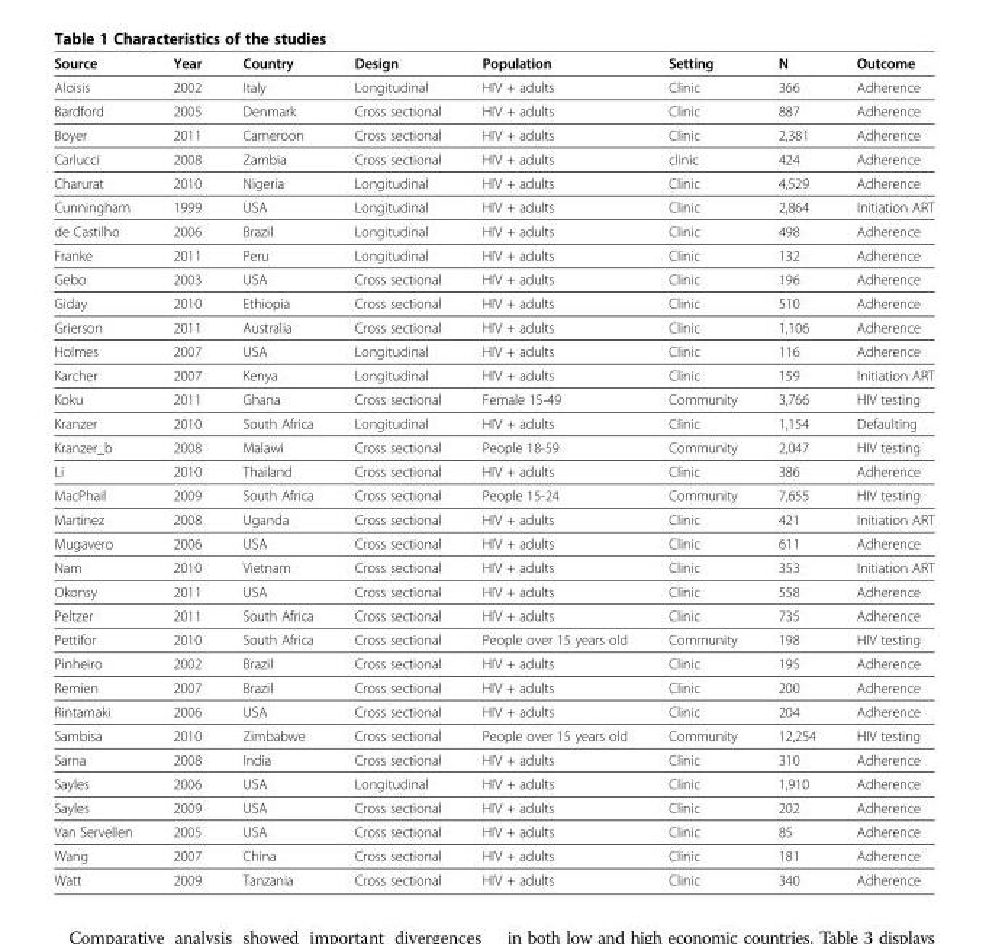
<table><thead><tr><td>Source</td><td>Year</td><td>Country</td><td>Design</td><td>Population</td><td>Setting</td><td>N</td><td>Outcome</td></tr></thead><tbody><tr><td>Aloisis</td><td>2002</td><td>Italy</td><td>Longitudinal</td><td>HIV + adults</td><td>Clinic</td><td>366</td><td>Adherence</td></tr><tr><td>Bardford</td><td>2005</td><td>Denmark</td><td>Cross sectional</td><td>HIV + adults</td><td>Clinic</td><td>887</td><td>Adherence</td></tr><tr><td>Boyer</td><td>2011</td><td>Cameroon</td><td>Cross sectional</td><td>HIV + adults</td><td>Clinic</td><td>2,381</td><td>Adherence</td></tr><tr><td>Carlucci</td><td>2008</td><td>Zambia</td><td>Cross sectional</td><td>HIV + adults</td><td>clinic</td><td>424</td><td>Adherence</td></tr><tr><td>Charurat</td><td>2010</td><td>Nigeria</td><td>Longitudinal</td><td>HIV + adults</td><td>Clinic</td><td>4,529</td><td>Adherence</td></tr><tr><td>Cunningham</td><td>1999</td><td>USA</td><td>Longitudinal</td><td>HIV + adults</td><td>Clinic</td><td>2,864</td><td>Initiation ART</td></tr><tr><td>de Castilho</td><td>2006</td><td>Brazil</td><td>Longitudinal</td><td>HIV + adults</td><td>Clinic</td><td>498</td><td>Adherence</td></tr><tr><td>Franke</td><td>2011</td><td>Peru</td><td>Longitudinal</td><td>HIV + adults</td><td>Clinic</td><td>132</td><td>Adherence</td></tr><tr><td>Gebo</td><td>2003</td><td>USA</td><td>Cross sectional</td><td>HIV + adults</td><td>Clinic</td><td>196</td><td>Adherence</td></tr><tr><td>Giday</td><td>2010</td><td>Ethiopia</td><td>Cross sectional</td><td>HIV + adults</td><td>Clinic</td><td>510</td><td>Adherence</td></tr><tr><td>Grierson</td><td>2011</td><td>Australia</td><td>Cross sectional</td><td>HIV + adults</td><td>Clinic</td><td>1,106</td><td>Adherence</td></tr><tr><td>Holmes</td><td>2007</td><td>USA</td><td>Longitudinal</td><td>HIV + adults</td><td>Clinic</td><td>116</td><td>Adherence</td></tr><tr><td>Karcher</td><td>2007</td><td>Kenya</td><td>Longitudinal</td><td>HIV + adults</td><td>Clinic</td><td>159</td><td>Initiation ART</td></tr><tr><td>Koku</td><td>2011</td><td>Ghana</td><td>Cross sectional</td><td>Female 15-49</td><td>Community</td><td>3,766</td><td>HIV testing</td></tr><tr><td>Kranzer</td><td>2010</td><td>South Africa</td><td>Longitudinal</td><td>HIV + adults</td><td>Clinic</td><td>1,154</td><td>Defaulting</td></tr><tr><td>Kranzer_b</td><td>2008</td><td>Malawi</td><td>Cross sectional</td><td>People 18-59</td><td>Community</td><td>2,047</td><td>HIV testing</td></tr><tr><td>Li</td><td>2010</td><td>Thailand</td><td>Cross sectional</td><td>HIV + adults</td><td>Clinic</td><td>386</td><td>Adherence</td></tr><tr><td>MacPhail</td><td>2009</td><td>South Africa</td><td>Cross sectional</td><td>People 15-24</td><td>Community</td><td>7,655</td><td>HIV testing</td></tr><tr><td>Martinez</td><td>2008</td><td>Uganda</td><td>Cross sectional</td><td>HIV + adults</td><td>Clinic</td><td>421</td><td>Initiation ART</td></tr><tr><td>Mugavero</td><td>2006</td><td>USA</td><td>Cross sectional</td><td>HIV + adults</td><td>Clinic</td><td>611</td><td>Adherence</td></tr><tr><td>Nam</td><td>2010</td><td>Vietnam</td><td>Cross sectional</td><td>HIV + adults</td><td>Clinic</td><td>353</td><td>Initiation ART</td></tr><tr><td>Okonsy</td><td>2011</td><td>USA</td><td>Cross sectional</td><td>HIV + adults</td><td>Clinic</td><td>558</td><td>Adherence</td></tr><tr><td>Peltzer</td><td>2011</td><td>South Africa</td><td>Cross sectional</td><td>HIV + adults</td><td>Clinic</td><td>735</td><td>Adherence</td></tr><tr><td>Pettifor</td><td>2010</td><td>South Africa</td><td>Cross sectional</td><td>People over 15 years old</td><td>Community</td><td>198</td><td>HIV testing</td></tr><tr><td>Pinheiro</td><td>2002</td><td>Brazil</td><td>Cross sectional</td><td>HIV + adults</td><td>Clinic</td><td>195</td><td>Adherence</td></tr><tr><td>Remien</td><td>2007</td><td>Brazil</td><td>Cross sectional</td><td>HIV + adults</td><td>Clinic</td><td>200</td><td>Adherence</td></tr><tr><td>Rintamaki</td><td>2006</td><td>USA</td><td>Cross sectional</td><td>HIV + adults</td><td>Clinic</td><td>204</td><td>Adherence</td></tr><tr><td>Sambisa</td><td>2010</td><td>Zimbabwe</td><td>Cross sectional</td><td>People over 15 years old</td><td>Community</td><td>12,254</td><td>HIV testing</td></tr><tr><td>Sarna</td><td>2008</td><td>India</td><td>Cross sectional</td><td>HIV + adults</td><td>Clinic</td><td>310</td><td>Adherence</td></tr><tr><td>Sayles</td><td>2006</td><td>USA</td><td>Longitudinal</td><td>HIV + adults</td><td>Clinic</td><td>1,910</td><td>Adherence</td></tr><tr><td>Sayles</td><td>2009</td><td>USA</td><td>Cross sectional</td><td>HIV + adults</td><td>Clinic</td><td>202</td><td>Adherence</td></tr><tr><td>Van Servellen</td><td>2005</td><td>USA</td><td>Cross sectional</td><td>HIV + adults</td><td>Clinic</td><td>85</td><td>Adherence</td></tr><tr><td>Wang</td><td>2007</td><td>China</td><td>Cross sectional</td><td>HIV + adults</td><td>Clinic</td><td>181</td><td>Adherence</td></tr><tr><td>Watt</td><td>2009</td><td>Tanzania</td><td>Cross sectional</td><td>HIV + adults</td><td>Clinic</td><td>340</td><td>Adherence</td></tr></tbody></table>